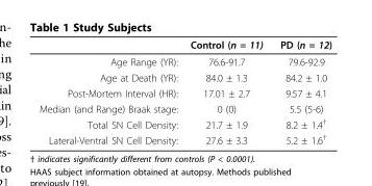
<table><thead><tr><td></td><td>Control (n = 11)</td><td>PD (n = 12)</td></tr></thead><tbody><tr><td>Age Range (YR):</td><td>76.6-91.7</td><td>79.6-92.9</td></tr><tr><td>Age at Death (YR):</td><td>84.0 ± 1.3</td><td>84.2 ± 1.0</td></tr><tr><td>Post-Mortem Interval (HR):</td><td>17.01 ± 2.7</td><td>9.57 ± 4.1</td></tr><tr><td>Median (and Range) Braak stage:</td><td>0 (0)</td><td>5.5 (5-6)</td></tr><tr><td>Total SN Cell Density:</td><td>21.7 ± 1.9</td><td>8.2 ± 1.4<sup>†</sup></td></tr><tr><td>Lateral-Ventral SN Cell Density:</td><td>27.6 ± 3.3</td><td>5.2 ± 1.6<sup>†</sup></td></tr></tbody></table>